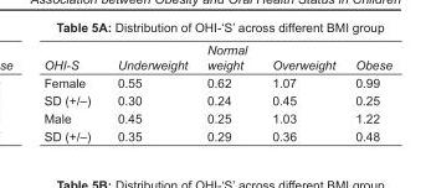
<table><tbody><tr><td>OHI-S</td><td>Underweight</td><td>Normal weight</td><td>Overweight</td><td>Obese</td></tr><tr><td>Female</td><td>0.55</td><td>0.62</td><td>1.07</td><td>0.99</td></tr><tr><td>SD (+/–)</td><td>0.30</td><td>0.24</td><td>0.45</td><td>0.25</td></tr><tr><td>Male</td><td>0.45</td><td>0.25</td><td>1.03</td><td>1.22</td></tr><tr><td>SD (+/–)</td><td>0.35</td><td>0.29</td><td>0.36</td><td>0.48</td></tr></tbody></table>